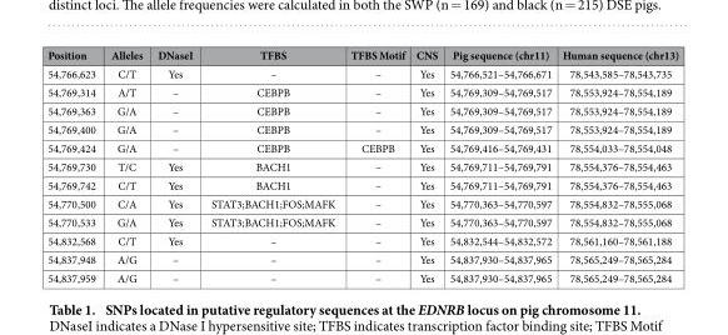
<table><thead><tr><td>Position</td><td>Alleles</td><td>DNaseI</td><td>TFBS</td><td>TFBS Motif</td><td>CNS</td><td>Pig sequence (chr11)</td><td>Human sequence (chr13)</td></tr></thead><tbody><tr><td>54,766,623</td><td>C/T</td><td>Yes</td><td>–</td><td>–</td><td>Yes</td><td>54,766,521–54,766,671</td><td>78,543,585–78,543,735</td></tr><tr><td>54,769,314</td><td>A/T</td><td>–</td><td>CEBPB</td><td>–</td><td>Yes</td><td>54,769,309–54,769,517</td><td>78,553,924–78,554,189</td></tr><tr><td>54,769,363</td><td>G/A</td><td>–</td><td>CEBPB</td><td>–</td><td>Yes</td><td>54,769,309–54,769,517</td><td>78,553,924–78,554,189</td></tr><tr><td>54,769,400</td><td>G/A</td><td>–</td><td>CEBPB</td><td>–</td><td>Yes</td><td>54,769,309–54,769,517</td><td>78,553,924–78,554,189</td></tr><tr><td>54,769,424</td><td>G/A</td><td>–</td><td>CEBPB</td><td>CEBPB</td><td>Yes</td><td>54,769,416–54,769,431</td><td>78,554,033–78,554,048</td></tr><tr><td>54,769,730</td><td>T/C</td><td>Yes</td><td>BACH1</td><td>–</td><td>Yes</td><td>54,769,711–54,769,791</td><td>78,554,376–78,554,463</td></tr><tr><td>54,769,742</td><td>C/T</td><td>Yes</td><td>BACH1</td><td>–</td><td>Yes</td><td>54,769,711–54,769,791</td><td>78,554,376–78,554,463</td></tr><tr><td>54,770,500</td><td>C/A</td><td>Yes</td><td>STAT3;BACH1;FOS;MAFK</td><td>–</td><td>Yes</td><td>54,770,363–54,770,597</td><td>78,554,832–78,555,068</td></tr><tr><td>54,770,533</td><td>G/A</td><td>Yes</td><td>STAT3;BACH1;FOS;MAFK</td><td>–</td><td>Yes</td><td>54,770,363–54,770,597</td><td>78,554,832–78,555,068</td></tr><tr><td>54,832,568</td><td>C/T</td><td>Yes</td><td>–</td><td>–</td><td>Yes</td><td>54,832,544–54,832,572</td><td>78,561,160–78,561,188</td></tr><tr><td>54,837,948</td><td>A/G</td><td>–</td><td>–</td><td>–</td><td>Yes</td><td>54,837,930–54,837,965</td><td>78,565,249–78,565,284</td></tr><tr><td>54,837,959</td><td>A/G</td><td>–</td><td>–</td><td>–</td><td>Yes</td><td>54,837,930–54,837,965</td><td>78,565,249–78,565,284</td></tr></tbody></table>